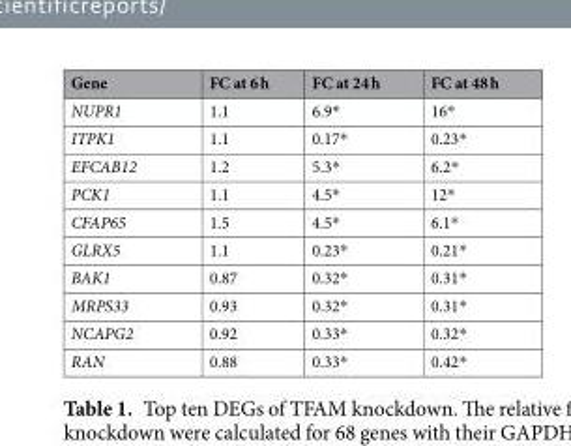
<table><thead><tr><td>Gene</td><td>FC at 6 h</td><td>FC at 24 h</td><td>FC at 48 h</td></tr></thead><tbody><tr><td>NUPR1</td><td>1.1</td><td>6.9*</td><td>16*</td></tr><tr><td>ITPK1</td><td>1.1</td><td>0.17*</td><td>0.23*</td></tr><tr><td>EFCAB12</td><td>1.2</td><td>5.3*</td><td>6.2*</td></tr><tr><td>PCK1</td><td>1.1</td><td>4.5*</td><td>12*</td></tr><tr><td>CFAP65</td><td>1.5</td><td>4.5*</td><td>6.1*</td></tr><tr><td>GLRX5</td><td>1.1</td><td>0.23*</td><td>0.21*</td></tr><tr><td>BAK1</td><td>0.87</td><td>0.32*</td><td>0.31*</td></tr><tr><td>MRPS33</td><td>0.93</td><td>0.32*</td><td>0.31*</td></tr><tr><td>NCAPG2</td><td>0.92</td><td>0.33*</td><td>0.32*</td></tr><tr><td>RAN</td><td>0.88</td><td>0.33*</td><td>0.42*</td></tr></tbody></table>